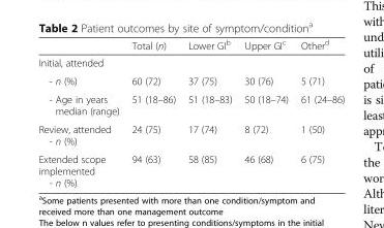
<table><thead><tr><td></td><td>Total (n)</td><td>Lower GI<sup>b</sup></td><td>Upper GI<sup>c</sup></td><td>Other<sup>d</sup></td></tr></thead><tbody><tr><td colspan="5">Initial, attended</td></tr><tr><td>- n (%)</td><td>60 (72)</td><td>37 (75)</td><td>30 (76)</td><td>5 (71)</td></tr><tr><td>- Age in years median (range)</td><td>51 (18–86)</td><td>51 (18–83)</td><td>50 (18–74)</td><td>61 (24–86)</td></tr><tr><td>Review, attended - n (%)</td><td>24 (75)</td><td>17 (74)</td><td>8 (72)</td><td>1 (50)</td></tr><tr><td>Extended scope implemented - n (%)</td><td>94 (63)</td><td>58 (85)</td><td>46 (68)</td><td>6 (75)</td></tr></tbody></table>